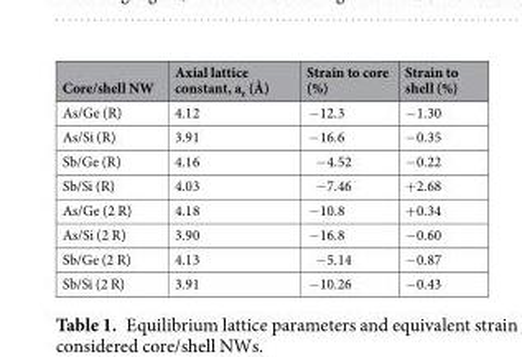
<table><thead><tr><td>Core/shell NW</td><td>Axial lattice constant, a<sub>z</sub> (Å)</td><td>Strain to core (%)</td><td>Strain to shell (%)</td></tr></thead><tbody><tr><td>As/Ge (R)</td><td>4.12</td><td>−12.3</td><td>−1.30</td></tr><tr><td>As/Si (R)</td><td>3.91</td><td>−16.6</td><td>−0.35</td></tr><tr><td>Sb/Ge (R)</td><td>4.16</td><td>−4.52</td><td>−0.22</td></tr><tr><td>Sb/Si (R)</td><td>4.03</td><td>−7.46</td><td>+2.68</td></tr><tr><td>As/Ge (2 R)</td><td>4.18</td><td>−10.8</td><td>+0.34</td></tr><tr><td>As/Si (2 R)</td><td>3.90</td><td>−16.8</td><td>−0.60</td></tr><tr><td>Sb/Ge (2 R)</td><td>4.13</td><td>−5.14</td><td>−0.87</td></tr><tr><td>Sb/Si (2 R)</td><td>3.91</td><td>−10.26</td><td>−0.43</td></tr></tbody></table>